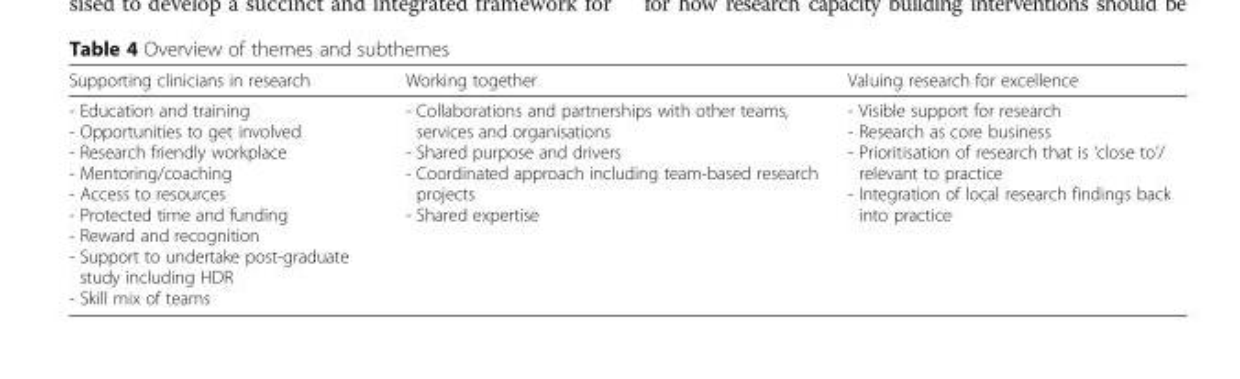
<table><thead><tr><td>Supporting clinicians in research</td><td>Working together</td><td>Valuing research for excellence</td></tr></thead><tbody><tr><td>- Education and training - Opportunities to get involved - Research friendly workplace - Mentoring/coaching - Access to resources - Protected time and funding - Reward and recognition - Support to undertake post-graduate study including HDR - Skill mix of teams</td><td>- Collaborations and partnerships with other teams, services and organisations - Shared purpose and drivers - Coordinated approach including team-based research projects - Shared expertise</td><td>- Visible support for research - Research as core business - Prioritisation of research that is ‘close to’/ relevant to practice - Integration of local research findings back into practice</td></tr></tbody></table>